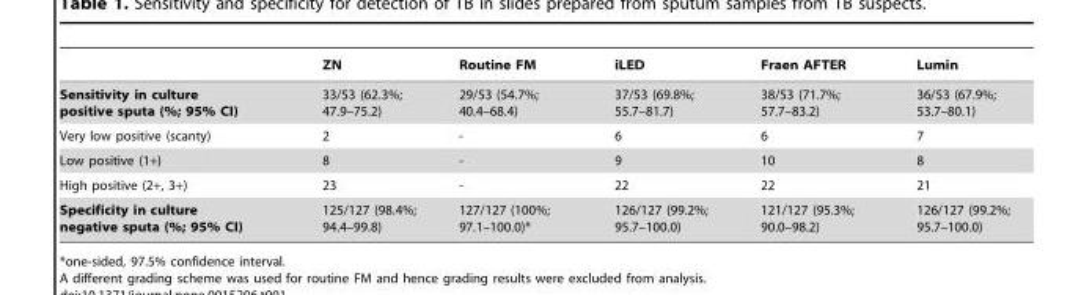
<table><thead><tr><td></td><td>ZN</td><td>Routine FM</td><td>iLED</td><td>Fraen AFTER</td><td>Lumin</td></tr></thead><tbody><tr><td>Sensitivity in culture positive sputa (%; 95% CI)</td><td>33/53 (62.3%; 47.9–75.2)</td><td>29/53 (54.7%; 40.4–68.4)</td><td>37/53 (69.8%; 55.7–81.7)</td><td>38/53 (71.7%; 57.7–83.2)</td><td>36/53 (67.9%; 53.7–80.1)</td></tr><tr><td>Very low positive (scanty)</td><td>2</td><td>-</td><td>6</td><td>6</td><td>7</td></tr><tr><td>Low positive (1+)</td><td>8</td><td>-</td><td>9</td><td>10</td><td>8</td></tr><tr><td>High positive (2+, 3+)</td><td>23</td><td>-</td><td>22</td><td>22</td><td>21</td></tr><tr><td>Specificity in culture negative sputa (%; 95% CI)</td><td>125/127 (98.4%; 94.4–99.8)</td><td>127/127 (100%; 97.1–100.0)*</td><td>126/127 (99.2%; 95.7–100.0)</td><td>121/127 (95.3%; 90.0–98.2)</td><td>126/127 (99.2%; 95.7–100.0)</td></tr></tbody></table>